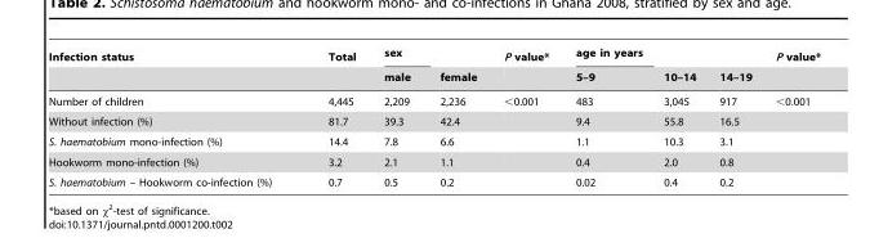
<table><thead><tr><td rowspan="2">Infection status</td><td rowspan="2">Total</td><td rowspan="2">sex male</td><td rowspan="2">female</td><td rowspan="2">P value*</td><td rowspan="2">age in years 5–9</td><td rowspan="2">10–14</td><td rowspan="2">14–19</td><td rowspan="2">P value*</td></tr><tr></tr></thead><tbody><tr><td>Number of children</td><td>4,445</td><td>2,209</td><td>2,236</td><td>&lt;0.001</td><td>483</td><td>3,045</td><td>917</td><td>&lt;0.001</td></tr><tr><td>Without infection (%)</td><td>81.7</td><td>39.3</td><td>42.4</td><td></td><td>9.4</td><td>55.8</td><td>16.5</td><td></td></tr><tr><td>S. haematobium mono-infection (%)</td><td>14.4</td><td>7.8</td><td>6.6</td><td></td><td>1.1</td><td>10.3</td><td>3.1</td><td></td></tr><tr><td>Hookworm mono-infection (%)</td><td>3.2</td><td>2.1</td><td>1.1</td><td></td><td>0.4</td><td>2.0</td><td>0.8</td><td></td></tr><tr><td>S. haematobium – Hookworm co-infection (%)</td><td>0.7</td><td>0.5</td><td>0.2</td><td></td><td>0.02</td><td>0.4</td><td>0.2</td><td></td></tr></tbody></table>